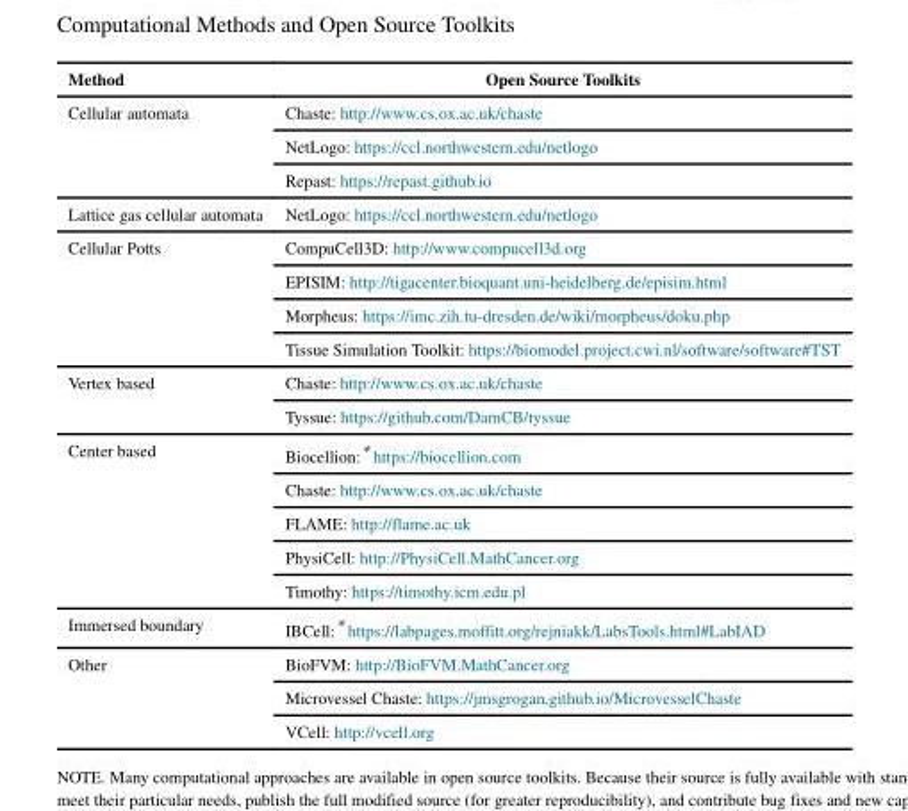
<table><thead><tr><td>Method</td><td>Open Source Toolkits</td></tr></thead><tbody><tr><td rowspan="3">Cellular automata</td><td>Chaste: http://www.cs.ox.ac.uk/chaste</td></tr><tr><td>NetLogo: https://ccl.northwestern.edu/netlogo</td></tr><tr><td>Repast: https://repast.github.io</td></tr><tr><td>Lattice gas cellular automata</td><td>NetLogo: https://ccl.northwestern.edu/netlogo</td></tr><tr><td rowspan="4">Cellular Potts</td><td>CompuCell3D: http://www.compucell3d.org</td></tr><tr><td>EPISIM: http://tigacenter.bioquant.uni-heidelberg.de/episim.html</td></tr><tr><td>Morpheus: https://imc.zih.tu-dresden.de/wiki/morpheus/doku.php</td></tr><tr><td>Tissue Simulation Toolkit: https://biomodel.project.cwi.nl/software/software#TST</td></tr><tr><td rowspan="2">Vertex based</td><td>Chaste: http://www.cs.ox.ac.uk/chaste</td></tr><tr><td>Tyssue: https://github.com/DamCB/tyssue</td></tr><tr><td rowspan="5">Center based</td><td>Biocellion:* https://biocellion.com</td></tr><tr><td>Chaste: http://www.cs.ox.ac.uk/chaste</td></tr><tr><td>FLAME: http://flame.ac.uk</td></tr><tr><td>PhysiCell: http://PhysiCell.MathCancer.org</td></tr><tr><td>Timothy: https://timothy.icm.edu.pl</td></tr><tr><td>Immersed boundary</td><td>IBCell:* https://labpages.moffitt.org/rejniakk/LabsTools.html#LabIAD</td></tr><tr><td rowspan="3">Other</td><td>BioFVM: http://BioFVM.MathCancer.org</td></tr><tr><td>Microvessel Chaste: https://jmsgrogan.github.io/MicrovesselChaste</td></tr><tr><td>VCell: http://vcell.org</td></tr></tbody></table>